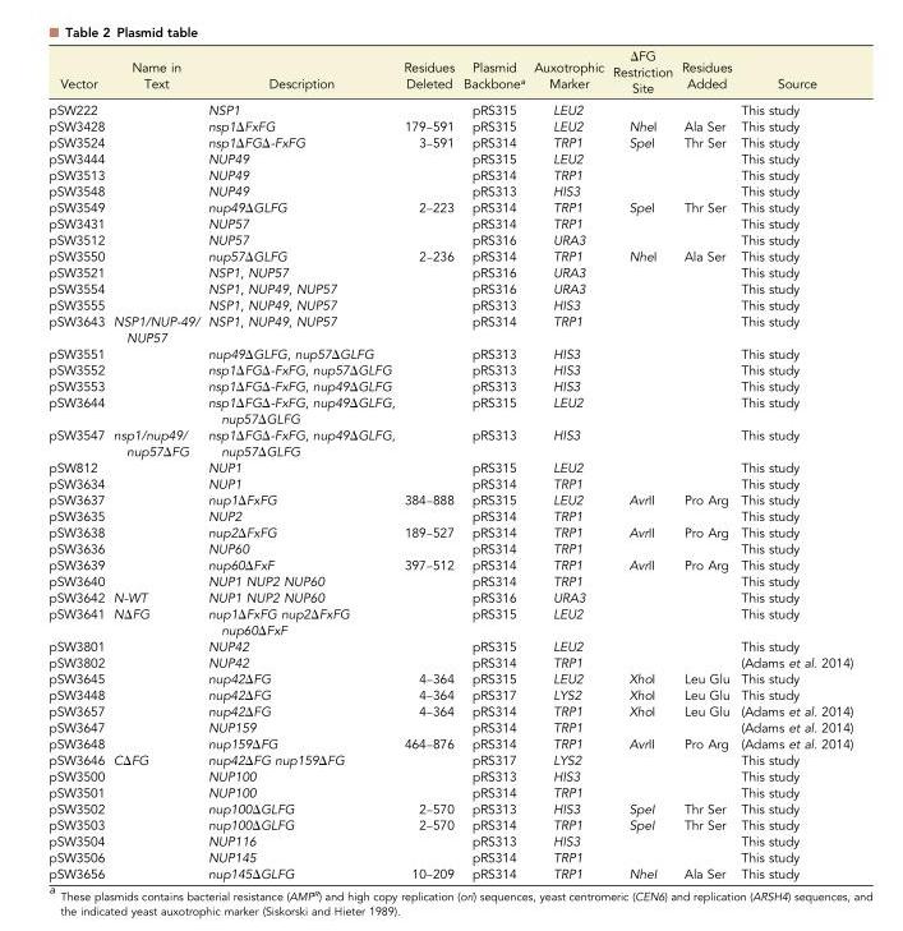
<table><thead><tr><td>Vector</td><td>Name in Text</td><td>Description</td><td>Residues Deleted</td><td>Plasmid Backbone<sup>a</sup></td><td>Auxotrophic Marker</td><td>ΔFG Restriction Site</td><td>Residues Added</td><td>Source</td></tr></thead><tbody><tr><td>pSW222</td><td></td><td>NSP1</td><td></td><td>pRS315</td><td>LEU2</td><td></td><td></td><td>This study</td></tr><tr><td>pSW3428</td><td></td><td>nsp1ΔFxFG</td><td>179–591</td><td>pRS315</td><td>LEU2</td><td>NheI</td><td>Ala Ser</td><td>This study</td></tr><tr><td>pSW3524</td><td></td><td>nsp1ΔFGΔ-FxFG</td><td>3–591</td><td>pRS314</td><td>TRP1</td><td>SpeI</td><td>Thr Ser</td><td>This study</td></tr><tr><td>pSW3444</td><td></td><td>NUP49</td><td></td><td>pRS315</td><td>LEU2</td><td></td><td></td><td>This study</td></tr><tr><td>pSW3513</td><td></td><td>NUP49</td><td></td><td>pRS314</td><td>TRP1</td><td></td><td></td><td>This study</td></tr><tr><td>pSW3548</td><td></td><td>NUP49</td><td></td><td>pRS313</td><td>HIS3</td><td></td><td></td><td>This study</td></tr><tr><td>pSW3549</td><td></td><td>nup49ΔGLFG</td><td>2–223</td><td>pRS314</td><td>TRP1</td><td>SpeI</td><td>Thr Ser</td><td>This study</td></tr><tr><td>pSW3431</td><td></td><td>NUP57</td><td></td><td>pRS314</td><td>TRP1</td><td></td><td></td><td>This study</td></tr><tr><td>pSW3512</td><td></td><td>NUP57</td><td></td><td>pRS316</td><td>URA3</td><td></td><td></td><td>This study</td></tr><tr><td>pSW3550</td><td></td><td>nup57ΔGLFG</td><td>2–236</td><td>pRS314</td><td>TRP1</td><td>NheI</td><td>Ala Ser</td><td>This study</td></tr><tr><td>pSW3521</td><td></td><td>NSP1, NUP57</td><td></td><td>pRS316</td><td>URA3</td><td></td><td></td><td>This study</td></tr><tr><td>pSW3554</td><td></td><td>NSP1, NUP49, NUP57</td><td></td><td>pRS316</td><td>URA3</td><td></td><td></td><td>This study</td></tr><tr><td>pSW3555</td><td></td><td>NSP1, NUP49, NUP57</td><td></td><td>pRS313</td><td>HIS3</td><td></td><td></td><td>This study</td></tr><tr><td>pSW3643</td><td>NSP1/NUP-49/ NUP57</td><td>NSP1, NUP49, NUP57</td><td></td><td>pRS314</td><td>TRP1</td><td></td><td></td><td>This study</td></tr><tr><td>pSW3551</td><td></td><td>nup49ΔGLFG, nup57ΔGLFG</td><td></td><td>pRS313</td><td>HIS3</td><td></td><td></td><td>This study</td></tr><tr><td>pSW3552</td><td></td><td>nsp1ΔFGΔ-FxFG, nup57ΔGLFG</td><td></td><td>pRS313</td><td>HIS3</td><td></td><td></td><td>This study</td></tr><tr><td>pSW3553</td><td></td><td>nsp1ΔFGΔ-FxFG, nup49ΔGLFG</td><td></td><td>pRS313</td><td>HIS3</td><td></td><td></td><td>This study</td></tr><tr><td>pSW3644</td><td></td><td>nsp1ΔFGΔ-FxFG, nup49ΔGLFG, nup57ΔGLFG</td><td></td><td>pRS315</td><td>LEU2</td><td></td><td></td><td>This study</td></tr><tr><td>pSW3547</td><td>nsp1/nup49/ nup57ΔFG</td><td>nsp1ΔFGΔ-FxFG, nup49ΔGLFG, nup57ΔGLFG</td><td></td><td>pRS313</td><td>HIS3</td><td></td><td></td><td>This study</td></tr><tr><td>pSW812</td><td></td><td>NUP1</td><td></td><td>pRS315</td><td>LEU2</td><td></td><td></td><td>This study</td></tr><tr><td>pSW3634</td><td></td><td>NUP1</td><td></td><td>pRS314</td><td>TRP1</td><td></td><td></td><td>This study</td></tr><tr><td>pSW3637</td><td></td><td>nup1ΔFxFG</td><td>384–888</td><td>pRS315</td><td>LEU2</td><td>AvrII</td><td>Pro Arg</td><td>This study</td></tr><tr><td>pSW3635</td><td></td><td>NUP2</td><td></td><td>pRS314</td><td>TRP1</td><td></td><td></td><td>This study</td></tr><tr><td>pSW3638</td><td></td><td>nup2ΔFxFG</td><td>189–527</td><td>pRS314</td><td>TRP1</td><td>AvrII</td><td>Pro Arg</td><td>This study</td></tr><tr><td>pSW3636</td><td></td><td>NUP60</td><td></td><td>pRS314</td><td>TRP1</td><td></td><td></td><td>This study</td></tr><tr><td>pSW3639</td><td></td><td>nup60ΔFxF</td><td>397–512</td><td>pRS314</td><td>TRP1</td><td>AvrII</td><td>Pro Arg</td><td>This study</td></tr><tr><td>pSW3640</td><td></td><td>NUP1 NUP2 NUP60</td><td></td><td>pRS314</td><td>TRP1</td><td></td><td></td><td>This study</td></tr><tr><td>pSW3642</td><td>N-WT</td><td>NUP1 NUP2 NUP60</td><td></td><td>pRS316</td><td>URA3</td><td></td><td></td><td>This study</td></tr><tr><td>pSW3641</td><td>NΔFG</td><td>nup1ΔFxFG nup2ΔFxFG nup60ΔFxF</td><td></td><td>pRS315</td><td>LEU2</td><td></td><td></td><td>This study</td></tr><tr><td>pSW3801</td><td></td><td>NUP42</td><td></td><td>pRS315</td><td>LEU2</td><td></td><td></td><td>This study</td></tr><tr><td>pSW3802</td><td></td><td>NUP42</td><td></td><td>pRS314</td><td>TRP1</td><td></td><td></td><td>(Adams et al. 2014)</td></tr><tr><td>pSW3645</td><td></td><td>nup42ΔFG</td><td>4–364</td><td>pRS315</td><td>LEU2</td><td>XhoI</td><td>Leu Glu</td><td>This study</td></tr><tr><td>pSW3448</td><td></td><td>nup42ΔFG</td><td>4–364</td><td>pRS317</td><td>LYS2</td><td>XhoI</td><td>Leu Glu</td><td>This study</td></tr><tr><td>pSW3657</td><td></td><td>nup42ΔFG</td><td>4–364</td><td>pRS314</td><td>TRP1</td><td>XhoI</td><td>Leu Glu</td><td>(Adams et al. 2014)</td></tr><tr><td>pSW3647</td><td></td><td>NUP159</td><td></td><td>pRS314</td><td>TRP1</td><td></td><td></td><td>(Adams et al. 2014)</td></tr><tr><td>pSW3648</td><td></td><td>nup159ΔFG</td><td>464–876</td><td>pRS314</td><td>TRP1</td><td>AvrII</td><td>Pro Arg</td><td>(Adams et al. 2014)</td></tr><tr><td>pSW3646</td><td>CΔFG</td><td>nup42ΔFG nup159ΔFG</td><td></td><td>pRS317</td><td>LYS2</td><td></td><td></td><td>This study</td></tr><tr><td>pSW3500</td><td></td><td>NUP100</td><td></td><td>pRS313</td><td>HIS3</td><td></td><td></td><td>This study</td></tr><tr><td>pSW3501</td><td></td><td>NUP100</td><td></td><td>pRS314</td><td>TRP1</td><td></td><td></td><td>This study</td></tr><tr><td>pSW3502</td><td></td><td>nup100ΔGLFG</td><td>2–570</td><td>pRS313</td><td>HIS3</td><td>SpeI</td><td>Thr Ser</td><td>This study</td></tr><tr><td>pSW3503</td><td></td><td>nup100ΔGLFG</td><td>2–570</td><td>pRS314</td><td>TRP1</td><td>SpeI</td><td>Thr Ser</td><td>This study</td></tr><tr><td>pSW3504</td><td></td><td>NUP116</td><td></td><td>pRS313</td><td>HIS3</td><td></td><td></td><td>This study</td></tr><tr><td>pSW3506</td><td></td><td>NUP145</td><td></td><td>pRS314</td><td>TRP1</td><td></td><td></td><td>This study</td></tr><tr><td>pSW3656</td><td></td><td>nup145ΔGLFG</td><td>10–209</td><td>pRS314</td><td>TRP1</td><td>NheI</td><td>Ala Ser</td><td>This study</td></tr></tbody></table>